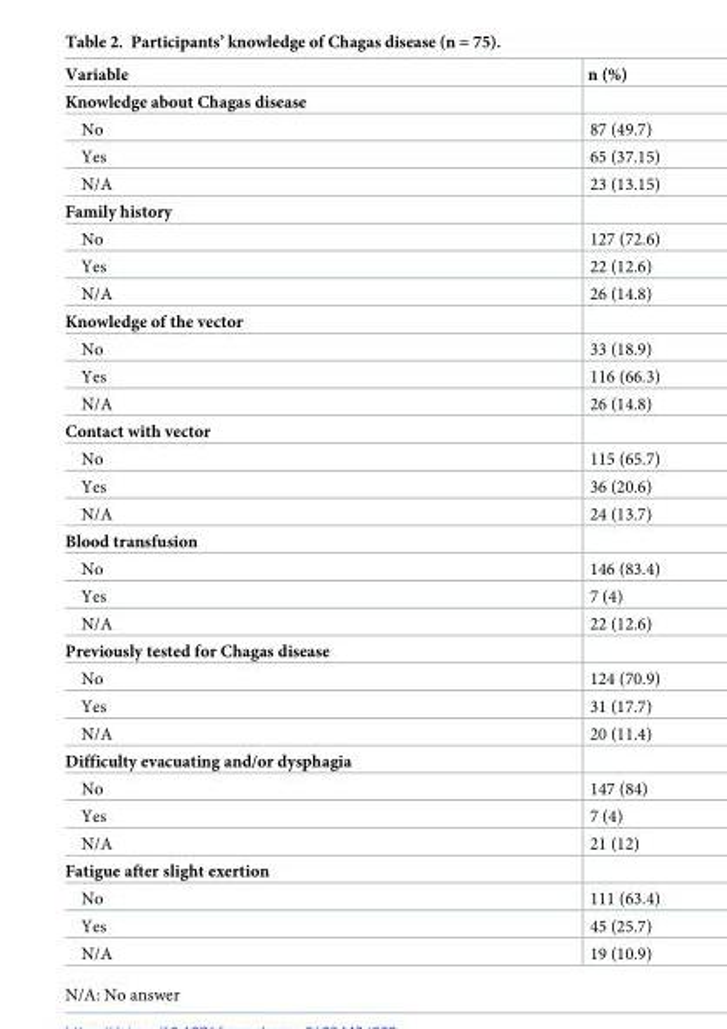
<table><thead><tr><td>Variable</td><td>n (%)</td></tr></thead><tbody><tr><td colspan="2">Knowledge about Chagas disease</td></tr><tr><td>No</td><td>87 (49.7)</td></tr><tr><td>Yes</td><td>65 (37.15)</td></tr><tr><td>N/A</td><td>23 (13.15)</td></tr><tr><td colspan="2">Family history</td></tr><tr><td>No</td><td>127 (72.6)</td></tr><tr><td>Yes</td><td>22 (12.6)</td></tr><tr><td>N/A</td><td>26 (14.8)</td></tr><tr><td colspan="2">Knowledge of the vector</td></tr><tr><td>No</td><td>33 (18.9)</td></tr><tr><td>Yes</td><td>116 (66.3)</td></tr><tr><td>N/A</td><td>26 (14.8)</td></tr><tr><td colspan="2">Contact with vector</td></tr><tr><td>No</td><td>115 (65.7)</td></tr><tr><td>Yes</td><td>36 (20.6)</td></tr><tr><td>N/A</td><td>24 (13.7)</td></tr><tr><td colspan="2">Blood transfusion</td></tr><tr><td>No</td><td>146 (83.4)</td></tr><tr><td>Yes</td><td>7 (4)</td></tr><tr><td>N/A</td><td>22 (12.6)</td></tr><tr><td colspan="2">Previously tested for Chagas disease</td></tr><tr><td>No</td><td>124 (70.9)</td></tr><tr><td>Yes</td><td>31 (17.7)</td></tr><tr><td>N/A</td><td>20 (11.4)</td></tr><tr><td colspan="2">Difficulty evacuating and/or dysphagia</td></tr><tr><td>No</td><td>147 (84)</td></tr><tr><td>Yes</td><td>7 (4)</td></tr><tr><td>N/A</td><td>21 (12)</td></tr><tr><td colspan="2">Fatigue after slight exertion</td></tr><tr><td>No</td><td>111 (63.4)</td></tr><tr><td>Yes</td><td>45 (25.7)</td></tr><tr><td>N/A</td><td>19 (10.9)</td></tr></tbody></table>